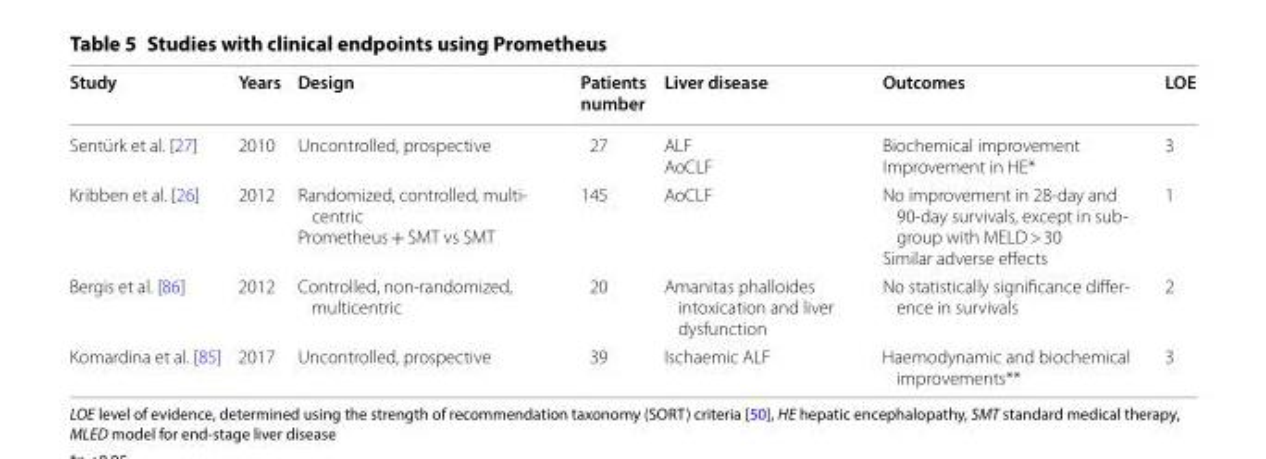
<table><thead><tr><td>Study</td><td>Years</td><td>Design</td><td>Patients number</td><td>Liver disease</td><td>Outcomes</td><td>LOE</td></tr></thead><tbody><tr><td>Sentürk et al. [27]</td><td>2010</td><td>Uncontrolled, prospective</td><td>27</td><td>ALF AoCLF</td><td>Biochemical improvement Improvement in HE*</td><td>3</td></tr><tr><td>Kribben et al. [26]</td><td>2012</td><td>Randomized, controlled, multi- centric Prometheus + SMT vs SMT</td><td>145</td><td>AoCLF</td><td>No improvement in 28-day and 90-day survivals, except in sub- group with MELD &gt; 30 Similar adverse effects</td><td>1</td></tr><tr><td>Bergis et al. [86]</td><td>2012</td><td>Controlled, non-randomized, multicentric</td><td>20</td><td>Amanitas phalloides intoxication and liver dysfunction</td><td>No statistically significance differ- ence in survivals</td><td>2</td></tr><tr><td>Komardina et al. [85]</td><td>2017</td><td>Uncontrolled, prospective</td><td>39</td><td>Ischaemic ALF</td><td>Haemodynamic and biochemical improvements**</td><td>3</td></tr></tbody></table>